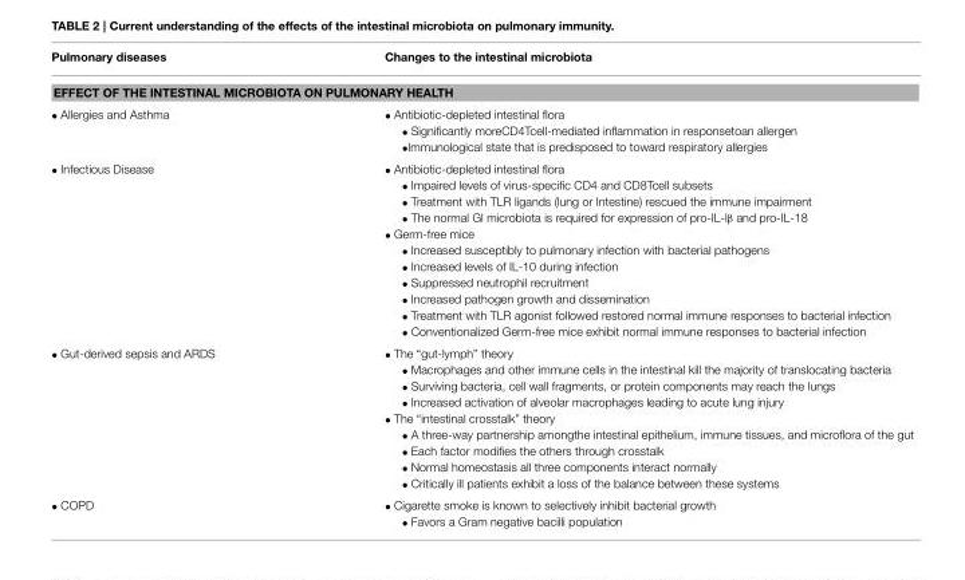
<table><thead><tr><td>Pulmonary diseases</td><td>Changes to the intestinal microbiota</td></tr></thead><tbody><tr><td colspan="2">EFFECT OF THE INTESTINAL MICROBIOTA ON PULMONARY HEALTH</td></tr><tr><td>• Allergies and Asthma</td><td>• Antibiotic-depleted intestinal flora • Significantly moreCD4Tcell-mediated inflammation in responsetoan allergen •Immunological state that is predisposed to toward respiratory allergies</td></tr><tr><td>• Infectious Disease</td><td>• Antibiotic-depleted intestinal flora • Impaired levels of virus-specific CD4 and CD8Tcell subsets • Treatment with TLR ligands (lung or Intestine) rescued the immune impairment • The normal Gl microbiota is required for expression of pro-IL-lβ and pro-IL-18 • Germ-free mice • Increased susceptibly to pulmonary infection with bacterial pathogens • Increased levels of IL-10 during infection • Suppressed neutrophil recruitment • Increased pathogen growth and dissemination • Treatment with TLR agonist followed restored normal immune responses to bacterial infection • Conventionalized Germ-free mice exhibit normal immune responses to bacterial infection</td></tr><tr><td>• Gut-derived sepsis and ARDS</td><td>• The “gut-lymph” theory • Macrophages and other immune cells in the intestinal kill the majority of translocating bacteria • Surviving bacteria, cell wall fragments, or protein components may reach the lungs • Increased activation of alveolar macrophages leading to acute lung injury • The “intestinal crosstalk” theory • A three-way partnership amongthe intestinal epithelium, immune tissues, and microflora of the gut • Each factor modifies the others through crosstalk • Normal homeostasis all three components interact normally • Critically ill patients exhibit a loss of the balance between these systems</td></tr><tr><td>• COPD</td><td>• Cigarette smoke is known to selectively inhibit bacterial growth • Favors a Gram negative bacilli population</td></tr></tbody></table>